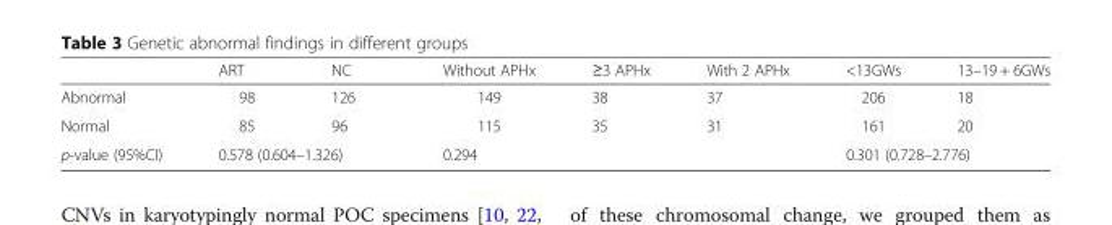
<table><thead><tr><td></td><td>ART</td><td>NC</td><td>Without APHx</td><td>≥3 APHx</td><td>With 2 APHx</td><td>&lt;13GWs</td><td>13–19 + 6GWs</td></tr></thead><tbody><tr><td>Abnormal</td><td>98</td><td>126</td><td>149</td><td>38</td><td>37</td><td>206</td><td>18</td></tr><tr><td>Normal</td><td>85</td><td>96</td><td>115</td><td>35</td><td>31</td><td>161</td><td>20</td></tr><tr><td>p-value (95%CI)</td><td colspan="2">0.578 (0.604–1.326)</td><td colspan="3">0.294</td><td colspan="2">0.301 (0.728–2.776)</td></tr></tbody></table>